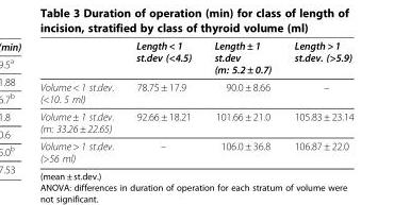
<table><thead><tr><td></td><td>Length &lt; 1 st.dev (&lt;4.5)</td><td>Length ± 1 st.dev (m: 5.2 ± 0.7)</td><td>Length &gt; 1 st.dev. (&gt;5.9)</td></tr></thead><tbody><tr><td>Volume &lt; 1 st.dev. (&lt;10. 5 ml)</td><td>78.75 ± 17.9</td><td>90.0 ± 8.66</td><td>–</td></tr><tr><td>Volume ± 1 st.dev. (m: 33.26 ± 22.65)</td><td>92.66 ± 18.21</td><td>101.66 ± 21.0</td><td>105.83 ± 23.14</td></tr><tr><td>Volume &gt; 1 st.dev. (&gt;56 ml)</td><td>–</td><td>106.0 ± 36.8</td><td>106.87 ± 22.0</td></tr></tbody></table>